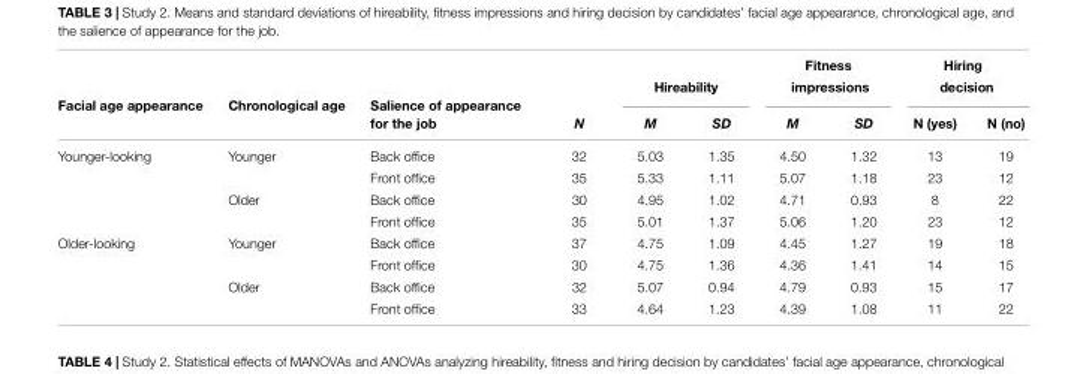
<table><thead><tr><td rowspan="3">Facial age appearance</td><td rowspan="3">Chronological age</td><td rowspan="3">Salience of appearance for the job</td><td rowspan="3">N</td><td></td><td></td><td rowspan="2" colspan="2">Fitness impressions</td><td rowspan="2" colspan="2">Hiring decision</td></tr><tr><td colspan="2">Hireability</td></tr><tr><td>M</td><td>SD</td><td>M</td><td>SD</td><td>N (yes)</td><td>N (no)</td></tr></thead><tbody><tr><td rowspan="4">Younger-looking</td><td>Younger</td><td>Back office</td><td>32</td><td>5.03</td><td>1.35</td><td>4.50</td><td>1.32</td><td>13</td><td>19</td></tr><tr><td></td><td>Front office</td><td>35</td><td>5.33</td><td>1.11</td><td>5.07</td><td>1.18</td><td>23</td><td>12</td></tr><tr><td>Older</td><td>Back office</td><td>30</td><td>4.95</td><td>1.02</td><td>4.71</td><td>0.93</td><td>8</td><td>22</td></tr><tr><td></td><td>Front office</td><td>35</td><td>5.01</td><td>1.37</td><td>5.06</td><td>1.20</td><td>23</td><td>12</td></tr><tr><td rowspan="4">Older-looking</td><td>Younger</td><td>Back office</td><td>37</td><td>4.75</td><td>1.09</td><td>4.45</td><td>1.27</td><td>19</td><td>18</td></tr><tr><td></td><td>Front office</td><td>30</td><td>4.75</td><td>1.36</td><td>4.36</td><td>1.41</td><td>14</td><td>15</td></tr><tr><td>Older</td><td>Back office</td><td>32</td><td>5.07</td><td>0.94</td><td>4.79</td><td>0.93</td><td>15</td><td>17</td></tr><tr><td></td><td>Front office</td><td>33</td><td>4.64</td><td>1.23</td><td>4.39</td><td>1.08</td><td>11</td><td>22</td></tr></tbody></table>